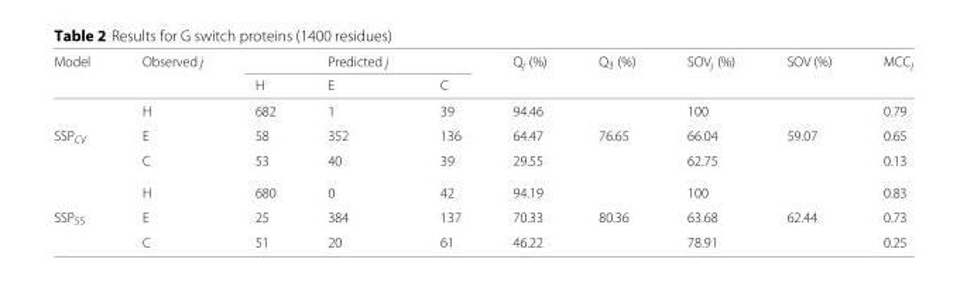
<table><thead><tr><td rowspan="2">Model</td><td rowspan="2">Observed j</td><td rowspan="2">H</td><td rowspan="2">Predicted j E</td><td rowspan="2">C</td><td rowspan="2">Q<sub>j</sub> (%)</td><td rowspan="2">Q<sub>3</sub> (%)</td><td rowspan="2">SOV<sub>j</sub> (%)</td><td rowspan="2">SOV (%)</td><td rowspan="2">MCC<sub>j</sub></td></tr><tr></tr></thead><tbody><tr><td></td><td>H</td><td>682</td><td>1</td><td>39</td><td>94.46</td><td></td><td>100</td><td></td><td>0.79</td></tr><tr><td rowspan="3">SSP<sub>CV</sub></td><td>E</td><td>58</td><td>352</td><td>136</td><td>64.47</td><td>76.65</td><td>66.04</td><td>59.07</td><td>0.65</td></tr><tr><td>C</td><td>53</td><td>40</td><td>39</td><td>29.55</td><td></td><td>62.75</td><td></td><td>0.13</td></tr><tr><td>H</td><td>680</td><td>0</td><td>42</td><td>94.19</td><td></td><td>100</td><td></td><td>0.83</td></tr><tr><td rowspan="2">SSP<sub>55</sub></td><td>E</td><td>25</td><td>384</td><td>137</td><td>70.33</td><td>80.36</td><td>63.68</td><td>62.44</td><td>0.73</td></tr><tr><td>C</td><td>51</td><td>20</td><td>61</td><td>46.22</td><td></td><td>78.91</td><td></td><td>0.25</td></tr></tbody></table>